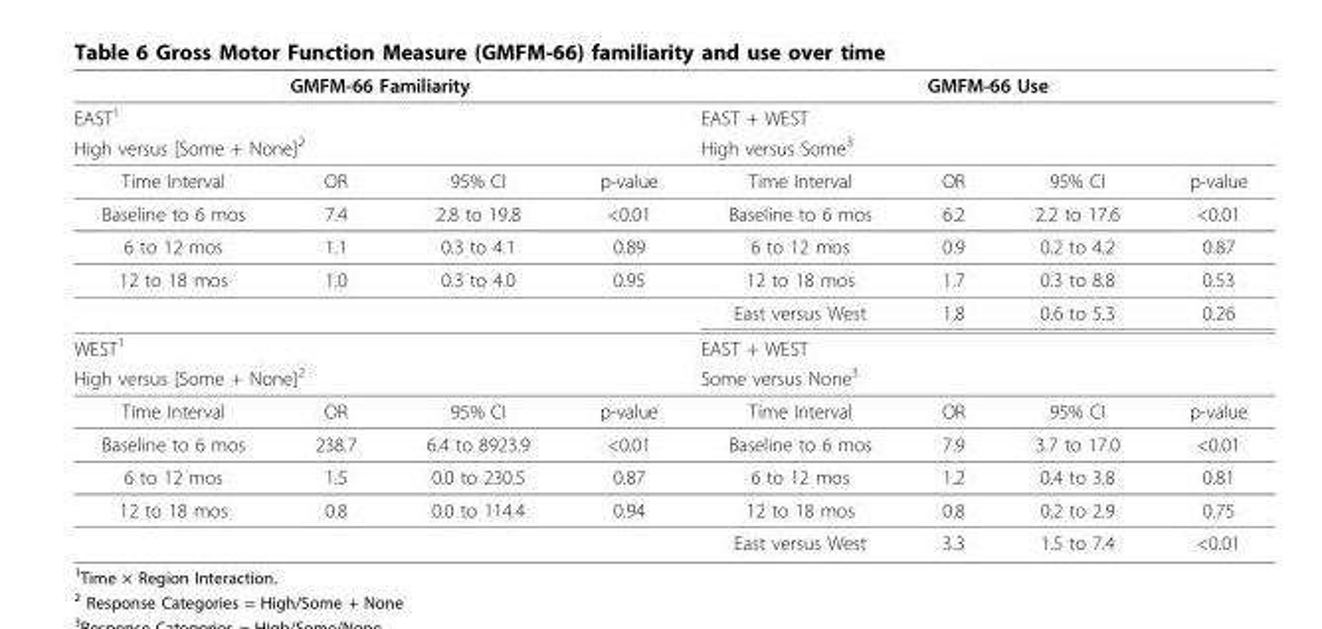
<table><thead><tr><td rowspan="3" colspan="4">GMFM-66 Familiarity EAST<sup>1</sup> High versus [Some + None]<sup>2</sup></td><td rowspan="3" colspan="4">GMFM-66 Use EAST + WEST High versus Some3</td></tr><tr></tr><tr></tr><tr><td>Time Interval</td><td>OR</td><td>95% CI</td><td>p-value</td><td>Time Interval</td><td>OR</td><td>95% CI</td><td>p-value</td></tr></thead><tbody><tr><td>Baseline to 6 mos</td><td>7.4</td><td>2.8 to 19.8</td><td>&lt;0.01</td><td>Baseline to 6 mos</td><td>6.2</td><td>2.2 to 17.6</td><td>&lt;0.01</td></tr><tr><td>6 to 12 mos</td><td>1.1</td><td>0.3 to 4.1</td><td>0.89</td><td>6 to 12 mos</td><td>0.9</td><td>0.2 to 4.2</td><td>0.87</td></tr><tr><td rowspan="2">12 to 18 mos</td><td>1.0</td><td>0.3 to 4.0</td><td>0.95</td><td>12 to 18 mos</td><td>1.7</td><td>0.3 to 8.8</td><td>0.53</td></tr><tr><td></td><td></td><td></td><td>East versus West</td><td>1.8</td><td>0.6 to 5.3</td><td>0.26</td></tr><tr><td colspan="4">WEST<sup>1</sup></td><td colspan="4">EAST + WEST</td></tr><tr><td colspan="4">High versus [Some + None]<sup>2</sup></td><td colspan="4">Some versus None<sup>3</sup></td></tr><tr><td>Time Interval</td><td>OR</td><td>95% CI</td><td>p-value</td><td>Time Interval</td><td>OR</td><td>95% CI</td><td>p-value</td></tr><tr><td>Baseline to 6 mos</td><td>238.7</td><td>6.4 to 8923.9</td><td>&lt;0.01</td><td>Baseline to 6 mos</td><td>7.9</td><td>3.7 to 17.0</td><td>&lt;0.01</td></tr><tr><td>6 to 12 mos</td><td>1.5</td><td>0.0 to 230.5</td><td>0.87</td><td>6 to 12 mos</td><td>1.2</td><td>0.4 to 3.8</td><td>0.81</td></tr><tr><td rowspan="2">12 to 18 mos</td><td>0.8</td><td>0.0 to 114.4</td><td>0.94</td><td>12 to 18 mos</td><td>0.8</td><td>0.2 to 2.9</td><td>0.75</td></tr><tr><td></td><td></td><td></td><td>East versus West</td><td>3.3</td><td>1.5 to 7.4</td><td>&lt;0.01</td></tr></tbody></table>